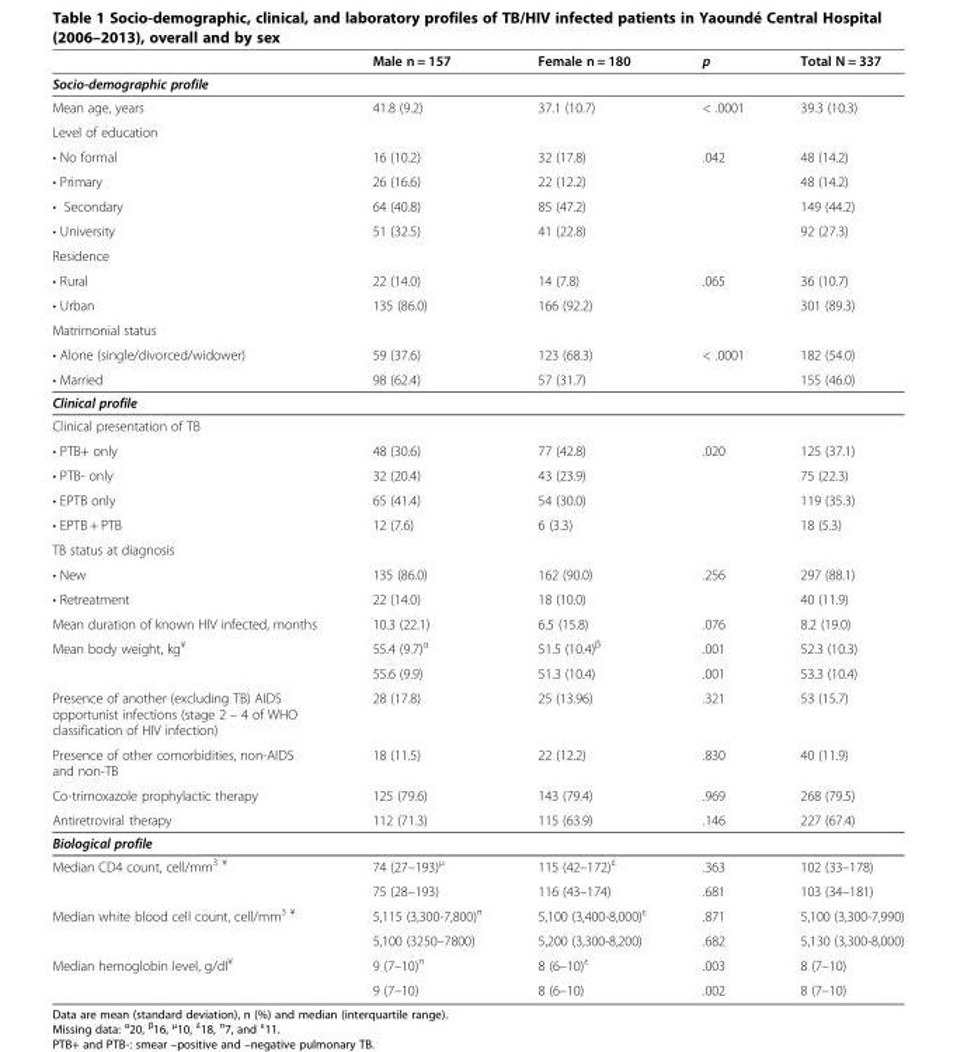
<table><thead><tr><td></td><td>Male n = 157</td><td>Female n = 180</td><td>p</td><td>Total N = 337</td></tr></thead><tbody><tr><td colspan="5">Socio-demographic profile</td></tr><tr><td>Mean age, years</td><td>41.8 (9.2)</td><td>37.1 (10.7)</td><td>&lt; .0001</td><td>39.3 (10.3)</td></tr><tr><td colspan="5">Level of education</td></tr><tr><td>• No formal</td><td>16 (10.2)</td><td>32 (17.8)</td><td>.042</td><td>48 (14.2)</td></tr><tr><td>• Primary</td><td>26 (16.6)</td><td>22 (12.2)</td><td></td><td>48 (14.2)</td></tr><tr><td>• Secondary</td><td>64 (40.8)</td><td>85 (47.2)</td><td></td><td>149 (44.2)</td></tr><tr><td>• University</td><td>51 (32.5)</td><td>41 (22.8)</td><td></td><td>92 (27.3)</td></tr><tr><td colspan="5">Residence</td></tr><tr><td>• Rural</td><td>22 (14.0)</td><td>14 (7.8)</td><td>.065</td><td>36 (10.7)</td></tr><tr><td>• Urban</td><td>135 (86.0)</td><td>166 (92.2)</td><td></td><td>301 (89.3)</td></tr><tr><td colspan="5">Matrimonial status</td></tr><tr><td>• Alone (single/divorced/widower)</td><td>59 (37.6)</td><td>123 (68.3)</td><td>&lt; .0001</td><td>182 (54.0)</td></tr><tr><td>• Married</td><td>98 (62.4)</td><td>57 (31.7)</td><td></td><td>155 (46.0)</td></tr><tr><td colspan="5">Clinical profile</td></tr><tr><td colspan="5">Clinical presentation of TB</td></tr><tr><td>• PTB+ only</td><td>48 (30.6)</td><td>77 (42.8)</td><td>.020</td><td>125 (37.1)</td></tr><tr><td>• PTB- only</td><td>32 (20.4)</td><td>43 (23.9)</td><td></td><td>75 (22.3)</td></tr><tr><td>• EPTB only</td><td>65 (41.4)</td><td>54 (30.0)</td><td></td><td>119 (35.3)</td></tr><tr><td>• EPTB + PTB</td><td>12 (7.6)</td><td>6 (3.3)</td><td></td><td>18 (5.3)</td></tr><tr><td colspan="5">TB status at diagnosis</td></tr><tr><td>• New</td><td>135 (86.0)</td><td>162 (90.0)</td><td>.256</td><td>297 (88.1)</td></tr><tr><td>• Retreatment</td><td>22 (14.0)</td><td>18 (10.0)</td><td></td><td>40 (11.9)</td></tr><tr><td>Mean duration of known HIV infected, months</td><td>10.3 (22.1)</td><td>6.5 (15.8)</td><td>.076</td><td>8.2 (19.0)</td></tr><tr><td rowspan="2">Mean body weight, kg<sup>¥</sup></td><td>55.4 (9.7)<sup>α</sup></td><td>51.5 (10.4)<sup>β</sup></td><td>.001</td><td>52.3 (10.3)</td></tr><tr><td>55.6 (9.9)</td><td>51.3 (10.4)</td><td>.001</td><td>53.3 (10.4)</td></tr><tr><td>Presence of another (excluding TB) AIDS opportunist infections (stage 2 – 4 of WHO classification of HIV infection)</td><td>28 (17.8)</td><td>25 (13.96)</td><td>.321</td><td>53 (15.7)</td></tr><tr><td>Presence of other comorbidities, non-AIDS and non-TB</td><td>18 (11.5)</td><td>22 (12.2)</td><td>.830</td><td>40 (11.9)</td></tr><tr><td>Co-trimoxazole prophylactic therapy</td><td>125 (79.6)</td><td>143 (79.4)</td><td>.969</td><td>268 (79.5)</td></tr><tr><td>Antiretroviral therapy</td><td>112 (71.3)</td><td>115 (63.9)</td><td>.146</td><td>227 (67.4)</td></tr><tr><td colspan="5">Biological profile</td></tr><tr><td rowspan="2">Median CD4 count, cell/mm<sup>3 ¥</sup></td><td>74 (27–193)<sup>μ</sup></td><td>115 (42–172)<sup>£</sup></td><td>.363</td><td>102 (33–178)</td></tr><tr><td>75 (28–193)</td><td>116 (43–174)</td><td>.681</td><td>103 (34–181)</td></tr><tr><td rowspan="2">Median white blood cell count, cell/mm<sup>3 ¥</sup></td><td>5,115 (3,300-7,800)<sup>π</sup></td><td>5,100 (3,400-8,000)<sup>ε</sup></td><td>.871</td><td>5,100 (3,300-7,990)</td></tr><tr><td>5,100 (3250–7800)</td><td>5,200 (3,300-8,200)</td><td>.682</td><td>5,130 (3,300-8,000)</td></tr><tr><td rowspan="2">Median hemoglobin level, g/dl<sup>¥</sup></td><td>9 (7–10)<sup>π</sup></td><td>8 (6–10)<sup>ε</sup></td><td>.003</td><td>8 (7–10)</td></tr><tr><td>9 (7–10)</td><td>8 (6–10)</td><td>.002</td><td>8 (7–10)</td></tr></tbody></table>